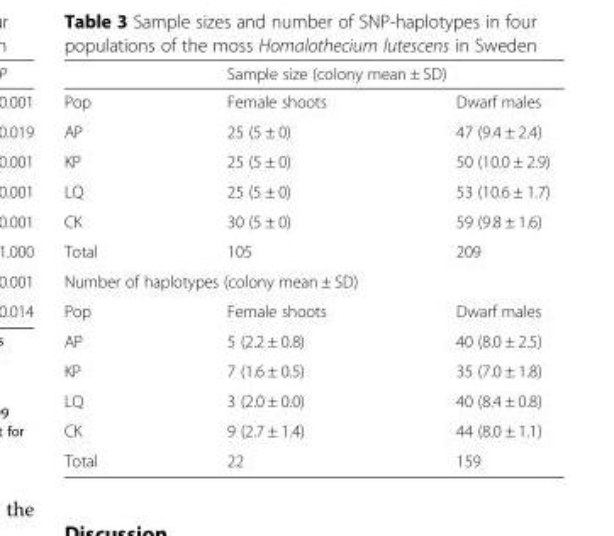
<table><thead><tr><td rowspan="2">Pop</td><td colspan="2">Sample size (colony mean ± SD)</td></tr><tr><td>Female shoots</td><td>Dwarf males</td></tr></thead><tbody><tr><td>AP</td><td>25 (5 ± 0)</td><td>47 (9.4 ± 2.4)</td></tr><tr><td>KP</td><td>25 (5 ± 0)</td><td>50 (10.0 ± 2.9)</td></tr><tr><td>LQ</td><td>25 (5 ± 0)</td><td>53 (10.6 ± 1.7)</td></tr><tr><td>CK</td><td>30 (5 ± 0)</td><td>59 (9.8 ± 1.6)</td></tr><tr><td>Total</td><td>105</td><td>209</td></tr><tr><td colspan="3">Number of haplotypes (colony mean ± SD)</td></tr><tr><td>Pop</td><td>Female shoots</td><td>Dwarf males</td></tr><tr><td>AP</td><td>5 (2.2 ± 0.8)</td><td>40 (8.0 ± 2.5)</td></tr><tr><td>KP</td><td>7 (1.6 ± 0.5)</td><td>35 (7.0 ± 1.8)</td></tr><tr><td>LQ</td><td>3 (2.0 ± 0.0)</td><td>40 (8.4 ± 0.8)</td></tr><tr><td>CK</td><td>9 (2.7 ± 1.4)</td><td>44 (8.0 ± 1.1)</td></tr><tr><td>Total</td><td>22</td><td>159</td></tr></tbody></table>